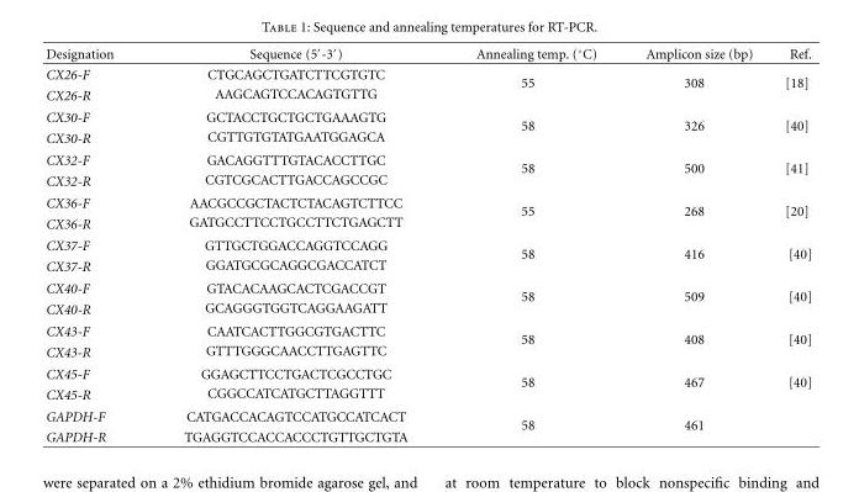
<table><thead><tr><td>Designation</td><td>Sequence (5′-3′)</td><td>Annealing temp. (◦C)</td><td>Amplicon size (bp)</td><td>Ref.</td></tr></thead><tbody><tr><td>CX26-F</td><td>CTGCAGCTGATCTTCGTGTC</td><td rowspan="2">55</td><td rowspan="2">308</td><td rowspan="2">[18]</td></tr><tr><td>CX26-R</td><td>AAGCAGTCCACAGTGTTG</td></tr><tr><td>CX30-F</td><td>GCTACCTGCTGCTGAAAGTG</td><td rowspan="2">58</td><td rowspan="2">326</td><td rowspan="2">[40]</td></tr><tr><td>CX30-R</td><td>CGTTGTGTATGAATGGAGCA</td></tr><tr><td>CX32-F</td><td>GACAGGTTTGTACACCTTGC</td><td rowspan="2">58</td><td rowspan="2">500</td><td rowspan="2">[41]</td></tr><tr><td>CX32-R</td><td>CGTCGCACTTGACCAGCCGC</td></tr><tr><td>CX36-F</td><td>AACGCCGCTACTCTACAGTCTTCC</td><td rowspan="2">55</td><td rowspan="2">268</td><td rowspan="2">[20]</td></tr><tr><td>CX36-R</td><td>GATGCCTTCCTGCCTTCTGAGCTT</td></tr><tr><td>CX37-F</td><td>GTTGCTGGACCAGGTCCAGG</td><td rowspan="2">58</td><td rowspan="2">416</td><td rowspan="2">[40]</td></tr><tr><td>CX37-R</td><td>GGATGCGCAGGCGACCATCT</td></tr><tr><td>CX40-F</td><td>GTACACAAGCACTCGACCGT</td><td rowspan="2">58</td><td rowspan="2">509</td><td rowspan="2">[40]</td></tr><tr><td>CX40-R</td><td>GCAGGGTGGTCAGGAAGATT</td></tr><tr><td>CX43-F</td><td>CAATCACTTGGCGTGACTTC</td><td rowspan="2">58</td><td rowspan="2">408</td><td rowspan="2">[40]</td></tr><tr><td>CX43-R</td><td>GTTTGGGCAACCTTGAGTTC</td></tr><tr><td>CX45-F</td><td>GGAGCTTCCTGACTCGCCTGC</td><td rowspan="2">58</td><td rowspan="2">467</td><td rowspan="2">[40]</td></tr><tr><td>CX45-R</td><td>CGGCCATCATGCTTAGGTTT</td></tr><tr><td>GAPDH-F</td><td>CATGACCACAGTCCATGCCATCACT</td><td rowspan="2">58</td><td rowspan="2">461</td><td rowspan="2"></td></tr><tr><td>GAPDH-R</td><td>TGAGGTCCACCACCCTGTTGCTGTA</td></tr></tbody></table>